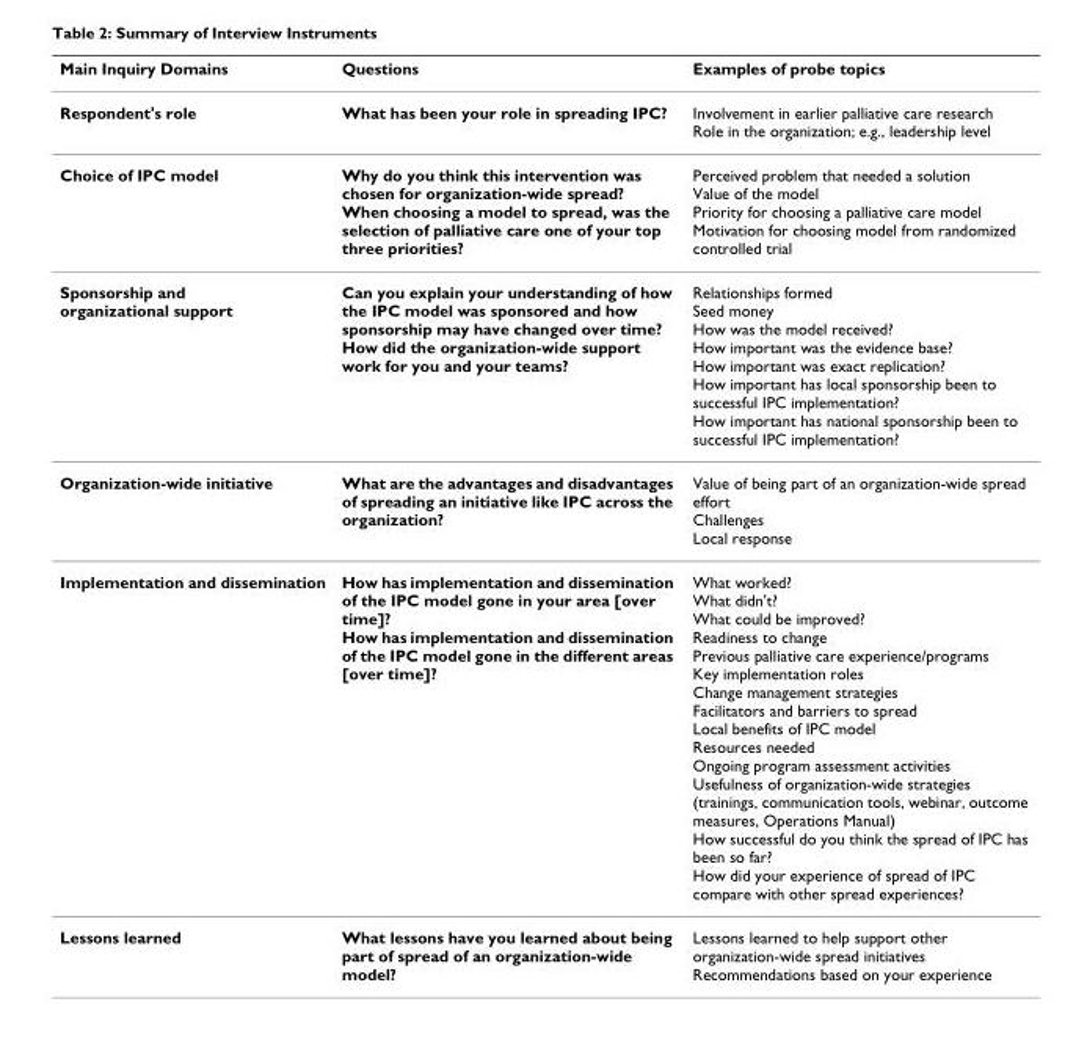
<table><thead><tr><td>Main Inquiry Domains</td><td>Questions</td><td>Examples of probe topics</td></tr></thead><tbody><tr><td>Respondent&#x27;s role</td><td>What has been your role in spreading IPC?</td><td>Involvement in earlier palliative care research Role in the organization; e.g., leadership level</td></tr><tr><td>Choice of IPC model</td><td>Why do you think this intervention was chosen for organization-wide spread? When choosing a model to spread, was the selection of palliative care one of your top three priorities?</td><td>Perceived problem that needed a solution Value of the model Priority for choosing a palliative care model Motivation for choosing model from randomized controlled trial</td></tr><tr><td>Sponsorship and organizational support</td><td>Can you explain your understanding of how the IPC model was sponsored and how sponsorship may have changed over time? How did the organization-wide support work for you and your teams?</td><td>Relationships formed Seed money How was the model received? How important was the evidence base? How important was exact replication? How important has local sponsorship been to successful IPC implementation? How important has national sponsorship been to successful IPC implementation?</td></tr><tr><td>Organization-wide initiative</td><td>What are the advantages and disadvantages of spreading an initiative like IPC across the organization?</td><td>Value of being part of an organization-wide spread effort Challenges Local response</td></tr><tr><td>Implementation and dissemination</td><td>How has implementation and dissemination of the IPC model gone in your area [over time]? How has implementation and dissemination of the IPC model gone in the different areas [over time]?</td><td>What worked? What didn&#x27;t? What could be improved? Readiness to change Previous palliative care experience/programs Key implementation roles Change management strategies Facilitators and barriers to spread Local benefits of IPC model Resources needed Ongoing program assessment activities Usefulness of organization-wide strategies (trainings, communication tools, webinar, outcome measures, Operations Manual) How successful do you think the spread of IPC has been so far? How did your experience of spread of IPC compare with other spread experiences?</td></tr><tr><td>Lessons learned</td><td>What lessons have you learned about being part of spread of an organization-wide model?</td><td>Lessons learned to help support other organization-wide spread initiatives Recommendations based on your experience</td></tr></tbody></table>